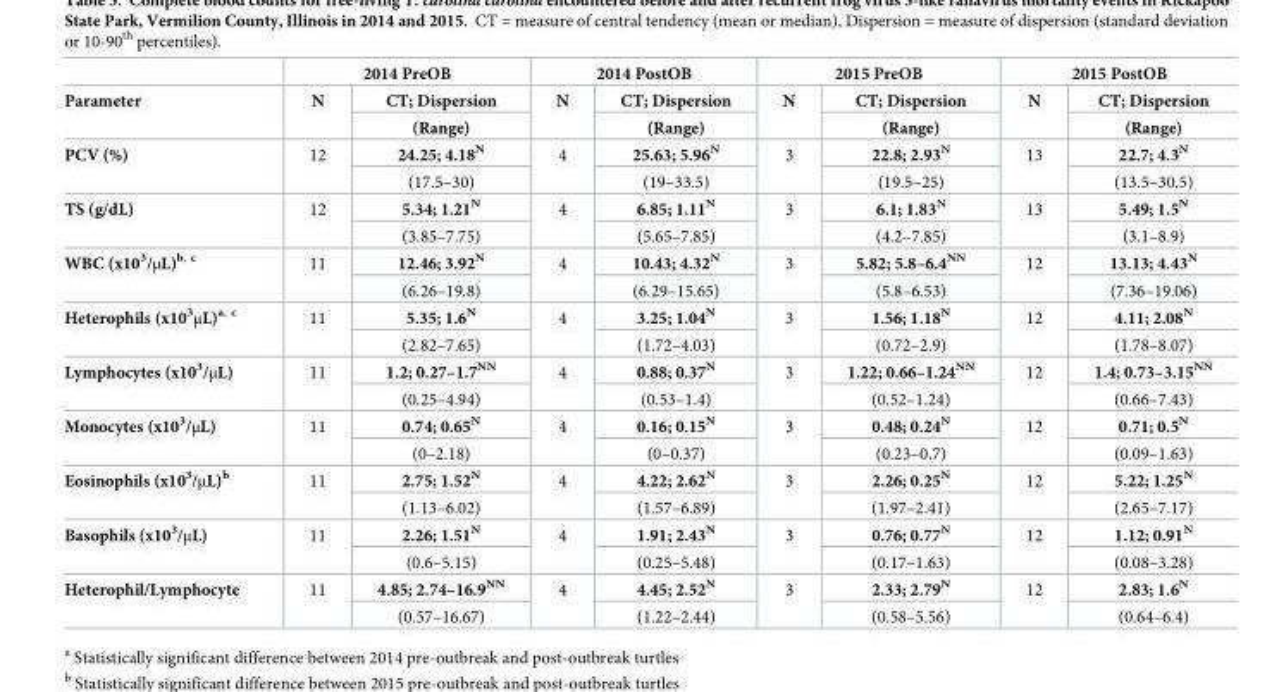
<table><thead><tr><td rowspan="3">Parameter</td><td colspan="2">2014 PreOB</td><td colspan="2">2014 PostOB</td><td colspan="2">2015 PreOB</td><td colspan="2">2015 PostOB</td></tr><tr><td rowspan="2">N</td><td rowspan="2">CT; Dispersion (Range)</td><td rowspan="2">N</td><td rowspan="2">CT; Dispersion (Range)</td><td rowspan="2">N</td><td rowspan="2">CT; Dispersion (Range)</td><td rowspan="2">N</td><td rowspan="2">CT; Dispersion (Range)</td></tr><tr></tr></thead><tbody><tr><td rowspan="2">PCV (%)</td><td rowspan="2">12</td><td>24.25; 4.18<sup>N</sup></td><td rowspan="2">4</td><td>25.63; 5.96<sup>N</sup></td><td rowspan="2">3</td><td>22.8; 2.93<sup>N</sup></td><td rowspan="2">13</td><td>22.7; 4.3<sup>N</sup></td></tr><tr><td>(17.5–30)</td><td>(19–33.5)</td><td>(19.5–25)</td><td>(13.5–30.5)</td></tr><tr><td rowspan="2">TS (g/dL)</td><td rowspan="2">12</td><td>5.34; 1.21<sup>N</sup></td><td rowspan="2">4</td><td>6.85; 1.11<sup>N</sup></td><td rowspan="2">3</td><td>6.1; 1.83<sup>N</sup></td><td rowspan="2">13</td><td>5.49; 1.5<sup>N</sup></td></tr><tr><td>(3.85–7.75)</td><td>(5.65–7.85)</td><td>(4.2–7.85)</td><td>(3.1–8.9)</td></tr><tr><td rowspan="2">WBC (x10<sup>3</sup>/μL)<sup>b, c</sup></td><td rowspan="2">11</td><td>12.46; 3.92<sup>N</sup></td><td rowspan="2">4</td><td>10.43; 4.32<sup>N</sup></td><td rowspan="2">3</td><td>5.82; 5.8–6.4<sup>NN</sup></td><td rowspan="2">12</td><td>13.13; 4.43<sup>N</sup></td></tr><tr><td>(6.26–19.8)</td><td>(6.29–15.65)</td><td>(5.8–6.53)</td><td>(7.36–19.06)</td></tr><tr><td rowspan="2">Heterophils (x10<sup>3</sup>μL)<sup>a, c</sup></td><td rowspan="2">11</td><td>5.35; 1.6<sup>N</sup></td><td rowspan="2">4</td><td>3.25; 1.04<sup>N</sup></td><td rowspan="2">3</td><td>1.56; 1.18<sup>N</sup></td><td rowspan="2">12</td><td>4.11; 2.08<sup>N</sup></td></tr><tr><td>(2.82–7.65)</td><td>(1.72–4.03)</td><td>(0.72–2.9)</td><td>(1.78–8.07)</td></tr><tr><td rowspan="2">Lymphocytes (x10<sup>3</sup>/μL)</td><td rowspan="2">11</td><td>1.2; 0.27–1.7<sup>NN</sup></td><td rowspan="2">4</td><td>0.88; 0.37<sup>N</sup></td><td rowspan="2">3</td><td>1.22; 0.66–1.24<sup>NN</sup></td><td rowspan="2">12</td><td>1.4; 0.73–3.15<sup>NN</sup></td></tr><tr><td>(0.25–4.94)</td><td>(0.53–1.4)</td><td>(0.52–1.24)</td><td>(0.66–7.43)</td></tr><tr><td rowspan="2">Monocytes (x10<sup>3</sup>/μL)</td><td rowspan="2">11</td><td>0.74; 0.65<sup>N</sup></td><td rowspan="2">4</td><td>0.16; 0.15<sup>N</sup></td><td rowspan="2">3</td><td>0.48; 0.24<sup>N</sup></td><td rowspan="2">12</td><td>0.71; 0.5<sup>N</sup></td></tr><tr><td>(0–2.18)</td><td>(0–0.37)</td><td>(0.23–0.7)</td><td>(0.09–1.63)</td></tr><tr><td rowspan="2">Eosinophils (x10<sup>3</sup>/μL)<sup>b</sup></td><td rowspan="2">11</td><td>2.75; 1.52<sup>N</sup></td><td rowspan="2">4</td><td>4.22; 2.62<sup>N</sup></td><td rowspan="2">3</td><td>2.26; 0.25<sup>N</sup></td><td rowspan="2">12</td><td>5.22; 1.25<sup>N</sup></td></tr><tr><td>(1.13–6.02)</td><td>(1.57–6.89)</td><td>(1.97–2.41)</td><td>(2.65–7.17)</td></tr><tr><td rowspan="2">Basophils (x10<sup>3</sup>/μL)</td><td rowspan="2">11</td><td>2.26; 1.51<sup>N</sup></td><td rowspan="2">4</td><td>1.91; 2.43<sup>N</sup></td><td rowspan="2">3</td><td>0.76; 0.77<sup>N</sup></td><td rowspan="2">12</td><td>1.12; 0.91<sup>N</sup></td></tr><tr><td>(0.6–5.15)</td><td>(0.25–5.48)</td><td>(0.17–1.63)</td><td>(0.08–3.28)</td></tr><tr><td rowspan="2">Heterophil/Lymphocyte</td><td rowspan="2">11</td><td>4.85; 2.74–16.9<sup>NN</sup></td><td rowspan="2">4</td><td>4.45; 2.52<sup>N</sup></td><td rowspan="2">3</td><td>2.33; 2.79<sup>N</sup></td><td rowspan="2">12</td><td>2.83; 1.6<sup>N</sup></td></tr><tr><td>(0.57–16.67)</td><td>(1.22–2.44)</td><td>(0.58–5.56)</td><td>(0.64–6.4)</td></tr></tbody></table>